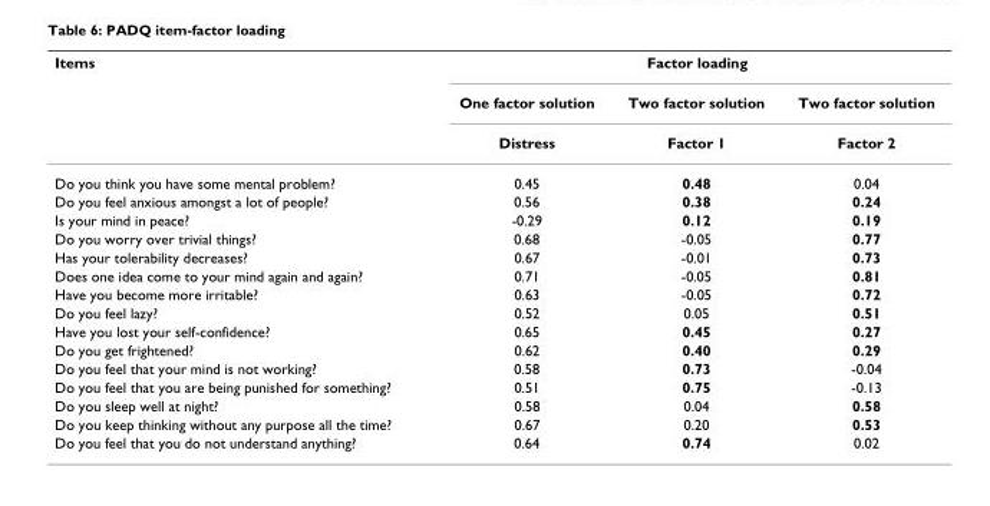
<table><thead><tr><td rowspan="3">Items</td><td colspan="3">Factor loading</td></tr><tr><td rowspan="2">One factor solution Distress</td><td rowspan="2">Two factor solution Factor 1</td><td rowspan="2">Two factor solution Factor 2</td></tr><tr></tr></thead><tbody><tr><td>Do you think you have some mental problem?</td><td>0.45</td><td>0.48</td><td>0.04</td></tr><tr><td>Do you feel anxious amongst a lot of people?</td><td>0.56</td><td>0.38</td><td>0.24</td></tr><tr><td>Is your mind in peace?</td><td>-0.29</td><td>0.12</td><td>0.19</td></tr><tr><td>Do you worry over trivial things?</td><td>0.68</td><td>-0.05</td><td>0.77</td></tr><tr><td>Has your tolerability decreases?</td><td>0.67</td><td>-0.01</td><td>0.73</td></tr><tr><td>Does one idea come to your mind again and again?</td><td>0.71</td><td>-0.05</td><td>0.81</td></tr><tr><td>Have you become more irritable?</td><td>0.63</td><td>-0.05</td><td>0.72</td></tr><tr><td>Do you feel lazy?</td><td>0.52</td><td>0.05</td><td>0.51</td></tr><tr><td>Have you lost your self-confidence?</td><td>0.65</td><td>0.45</td><td>0.27</td></tr><tr><td>Do you get frightened?</td><td>0.62</td><td>0.40</td><td>0.29</td></tr><tr><td>Do you feel that your mind is not working?</td><td>0.58</td><td>0.73</td><td>-0.04</td></tr><tr><td>Do you feel that you are being punished for something?</td><td>0.51</td><td>0.75</td><td>-0.13</td></tr><tr><td>Do you sleep well at night?</td><td>0.58</td><td>0.04</td><td>0.58</td></tr><tr><td>Do you keep thinking without any purpose all the time?</td><td>0.67</td><td>0.20</td><td>0.53</td></tr><tr><td>Do you feel that you do not understand anything?</td><td>0.64</td><td>0.74</td><td>0.02</td></tr></tbody></table>